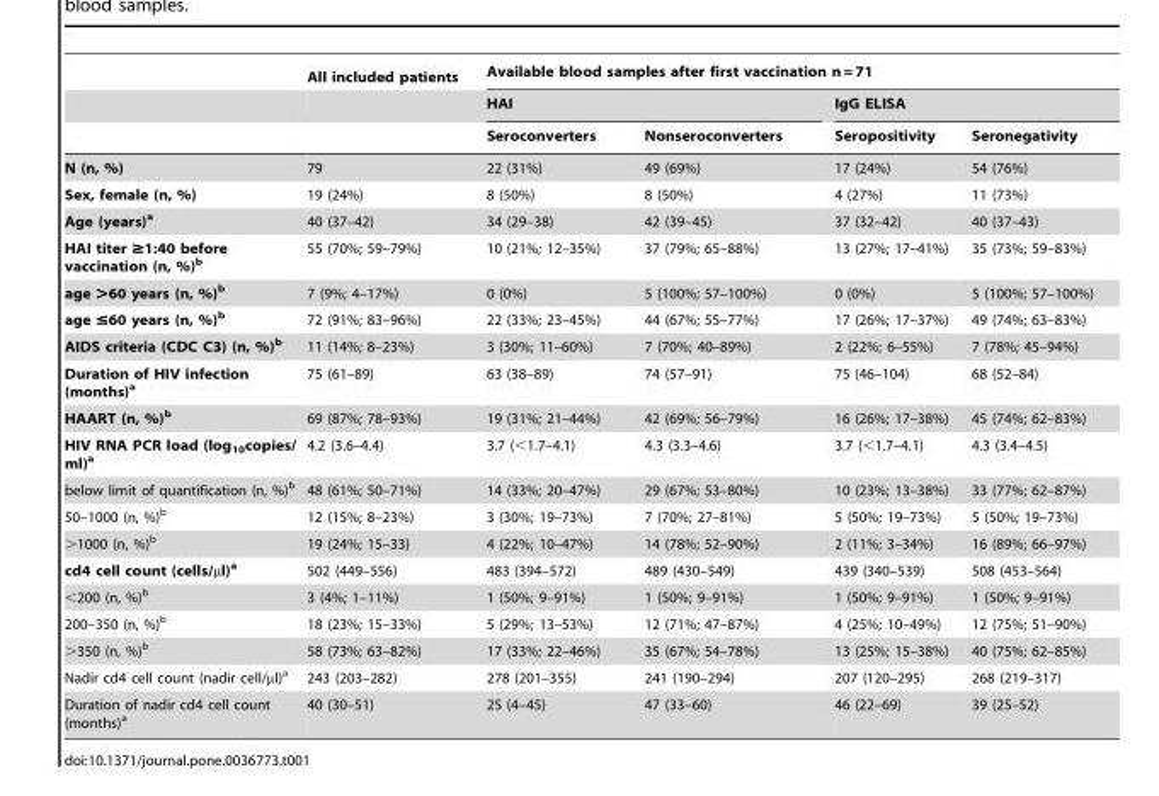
<table><thead><tr><td rowspan="3"></td><td rowspan="3">All included patients</td><td colspan="4">Available blood samples after first vaccination n = 71</td></tr><tr><td colspan="2">HAI</td><td colspan="2">IgG ELISA</td></tr><tr><td>Seroconverters</td><td>Nonseroconverters</td><td>Seropositivity</td><td>Seronegativity</td></tr></thead><tbody><tr><td>N (n, %)</td><td>79</td><td>22 (31%)</td><td>49 (69%)</td><td>17 (24%)</td><td>54 (76%)</td></tr><tr><td>Sex, female (n, %)</td><td>19 (24%)</td><td>8 (50%)</td><td>8 (50%)</td><td>4 (27%)</td><td>11 (73%)</td></tr><tr><td>Age (years)<sup>a</sup></td><td>40 (37–42)</td><td>34 (29–38)</td><td>42 (39–45)</td><td>37 (32–42)</td><td>40 (37–43)</td></tr><tr><td>HAI titer ≥1:40 before vaccination (n, %)b</td><td>55 (70%; 59–79%)</td><td>10 (21%; 12–35%)</td><td>37 (79%; 65–88%)</td><td>13 (27%; 17–41%)</td><td>35 (73%; 59–83%)</td></tr><tr><td>age &gt;60 years (n, %)<sup>b</sup></td><td>7 (9%; 4–17%)</td><td>0 (0%)</td><td>5 (100%; 57–100%)</td><td>0 (0%)</td><td>5 (100%; 57–100%)</td></tr><tr><td>age ≤60 years (n, %)<sup>b</sup></td><td>72 (91%; 83–96%)</td><td>22 (33%; 23–45%)</td><td>44 (67%; 55–77%)</td><td>17 (26%; 17–37%)</td><td>49 (74%; 63–83%)</td></tr><tr><td>AIDS criteria (CDC C3) (n, %)<sup>b</sup></td><td>11 (14%; 8–23%)</td><td>3 (30%; 11–60%)</td><td>7 (70%; 40–89%)</td><td>2 (22%; 6–55%)</td><td>7 (78%; 45–94%)</td></tr><tr><td>Duration of HIV infection (months)<sup>a</sup></td><td>75 (61–89)</td><td>63 (38–89)</td><td>74 (57–91)</td><td>75 (46–104)</td><td>68 (52–84)</td></tr><tr><td>HAART (n, %)<sup>b</sup></td><td>69 (87%; 78–93%)</td><td>19 (31%; 21–44%)</td><td>42 (69%; 56–79%)</td><td>16 (26%; 17–38%)</td><td>45 (74%; 62–83%)</td></tr><tr><td>HIV RNA PCR load (log<sub>10</sub>copies/ ml)<sup>a</sup></td><td>4.2 (3.6–4.4)</td><td>3.7 (&lt;1.7–4.1)</td><td>4.3 (3.3–4.6)</td><td>3.7 (&lt;1.7–4.1)</td><td>4.3 (3.4–4.5)</td></tr><tr><td>below limit of quantification (n, %)<sup>b</sup></td><td>48 (61%; 50–71%)</td><td>14 (33%; 20–47%)</td><td>29 (67%; 53–80%)</td><td>10 (23%; 13–38%)</td><td>33 (77%; 62–87%)</td></tr><tr><td>50–1000 (n, %)<sup>b</sup></td><td>12 (15%; 8–23%)</td><td>3 (30%; 19–73%)</td><td>7 (70%; 27–81%)</td><td>5 (50%; 19–73%)</td><td>5 (50%; 19–73%)</td></tr><tr><td>&gt;1000 (n, %)<sup>b</sup></td><td>19 (24%; 15–33)</td><td>4 (22%; 10–47%)</td><td>14 (78%; 52–90%)</td><td>2 (11%; 3–34%)</td><td>16 (89%; 66–97%)</td></tr><tr><td>cd4 cell count (cells/µl)<sup>a</sup></td><td>502 (449–556)</td><td>483 (394–572)</td><td>489 (430–549)</td><td>439 (340–539)</td><td>508 (453–564)</td></tr><tr><td>&lt;200 (n, %)<sup>b</sup></td><td>3 (4%; 1–11%)</td><td>1 (50%; 9–91%)</td><td>1 (50%; 9–91%)</td><td>1 (50%; 9–91%)</td><td>1 (50%; 9–91%)</td></tr><tr><td>200–350 (n, %)<sup>b</sup></td><td>18 (23%; 15–33%)</td><td>5 (29%; 13–53%)</td><td>12 (71%; 47–87%)</td><td>4 (25%; 10–49%)</td><td>12 (75%; 51–90%)</td></tr><tr><td>&gt;350 (n, %)<sup>b</sup></td><td>58 (73%; 63–82%)</td><td>17 (33%; 22–46%)</td><td>35 (67%; 54–78%)</td><td>13 (25%; 15–38%)</td><td>40 (75%; 62–85%)</td></tr><tr><td>Nadir cd4 cell count (nadir cell/µl)<sup>a</sup></td><td>243 (203–282)</td><td>278 (201–355)</td><td>241 (190–294)</td><td>207 (120–295)</td><td>268 (219–317)</td></tr><tr><td>Duration of nadir cd4 cell count (months)<sup>a</sup></td><td>40 (30–51)</td><td>25 (4–45)</td><td>47 (33–60)</td><td>46 (22–69)</td><td>39 (25–52)</td></tr></tbody></table>